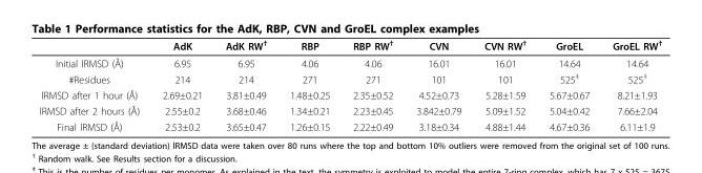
<table><thead><tr><td></td><td>AdK</td><td>AdK RW<sup>†</sup></td><td>RBP</td><td>RBP RW<sup>†</sup></td><td>CVN</td><td>CVN RW<sup>†</sup></td><td>GroEL</td><td>GroEL RW<sup>†</sup></td></tr></thead><tbody><tr><td>Initial lRMSD (Å)</td><td>6.95</td><td>6.95</td><td>4.06</td><td>4.06</td><td>16.01</td><td>16.01</td><td>14.64</td><td>14.64</td></tr><tr><td>#Residues</td><td>214</td><td>214</td><td>271</td><td>271</td><td>101</td><td>101</td><td>525<sup>‡</sup></td><td>525<sup>‡</sup></td></tr><tr><td>lRMSD after 1 hour (Å)</td><td>2.69±0.21</td><td>3.81±0.49</td><td>1.48±0.25</td><td>2.35±0.52</td><td>4.52±0.73</td><td>5.28±1.59</td><td>5.67±0.67</td><td>8.21±1.93</td></tr><tr><td>lRMSD after 2 hours (Å)</td><td>2.55±0.2</td><td>3.68±0.46</td><td>1.34±0.21</td><td>2.23±0.45</td><td>3.842±0.79</td><td>5.09±1.52</td><td>5.04±0.42</td><td>7.66±2.04</td></tr><tr><td>Final lRMSD (Å)</td><td>2.53±0.2</td><td>3.65±0.47</td><td>1.26±0.15</td><td>2.22±0.49</td><td>3.18±0.34</td><td>4.88±1.44</td><td>4.67±0.36</td><td>6.11±1.9</td></tr></tbody></table>